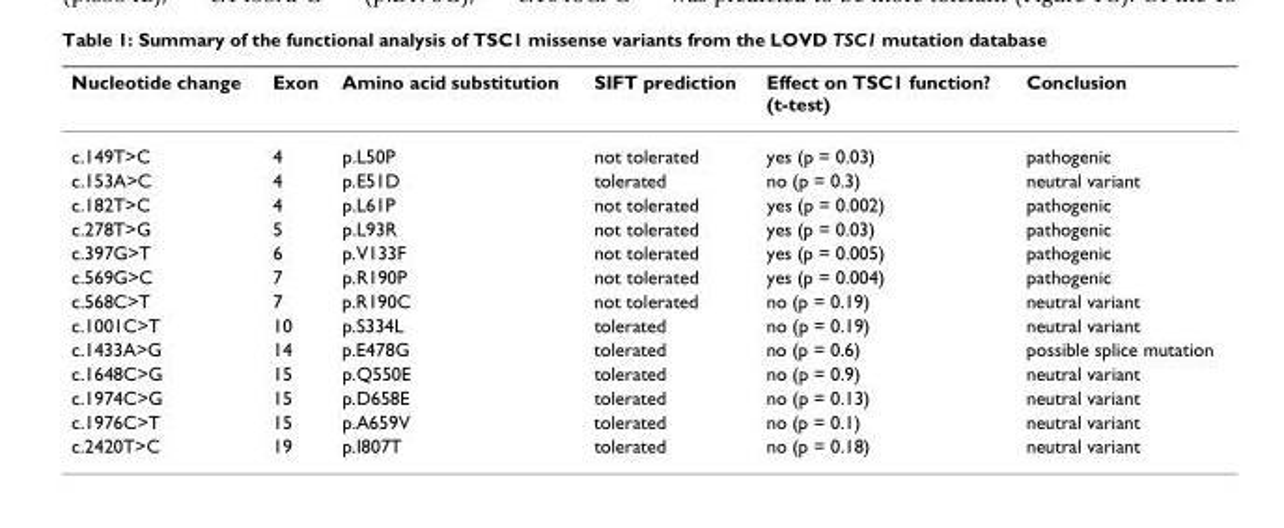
<table><thead><tr><td>Nucleotide change</td><td>Exon</td><td>Amino acid substitution</td><td>SIFT prediction</td><td>Effect on TSC1 function? (t-test)</td><td>Conclusion</td></tr></thead><tbody><tr><td>c.149T&gt;C</td><td>4</td><td>p.L50P</td><td>not tolerated</td><td>yes (p = 0.03)</td><td>pathogenic</td></tr><tr><td>c.153A&gt;C</td><td>4</td><td>p.E51D</td><td>tolerated</td><td>no (p = 0.3)</td><td>neutral variant</td></tr><tr><td>c.182T&gt;C</td><td>4</td><td>p.L61P</td><td>not tolerated</td><td>yes (p = 0.002)</td><td>pathogenic</td></tr><tr><td>c.278T&gt;G</td><td>5</td><td>p.L93R</td><td>not tolerated</td><td>yes (p = 0.03)</td><td>pathogenic</td></tr><tr><td>c.397G&gt;T</td><td>6</td><td>p.V133F</td><td>not tolerated</td><td>yes (p = 0.005)</td><td>pathogenic</td></tr><tr><td>c.569G&gt;C</td><td>7</td><td>p.R190P</td><td>not tolerated</td><td>yes (p = 0.004)</td><td>pathogenic</td></tr><tr><td>c.568C&gt;T</td><td>7</td><td>p.R190C</td><td>not tolerated</td><td>no (p = 0.19)</td><td>neutral variant</td></tr><tr><td>c.1001C&gt;T</td><td>10</td><td>p.S334L</td><td>tolerated</td><td>no (p = 0.19)</td><td>neutral variant</td></tr><tr><td>c.1433A&gt;G</td><td>14</td><td>p.E478G</td><td>tolerated</td><td>no (p = 0.6)</td><td>possible splice mutation</td></tr><tr><td>c.1648C&gt;G</td><td>15</td><td>p.Q550E</td><td>tolerated</td><td>no (p = 0.9)</td><td>neutral variant</td></tr><tr><td>c.1974C&gt;G</td><td>15</td><td>p.D658E</td><td>tolerated</td><td>no (p = 0.13)</td><td>neutral variant</td></tr><tr><td>c.1976C&gt;T</td><td>15</td><td>p.A659V</td><td>tolerated</td><td>no (p = 0.1)</td><td>neutral variant</td></tr><tr><td>c.2420T&gt;C</td><td>19</td><td>p.I807T</td><td>tolerated</td><td>no (p = 0.18)</td><td>neutral variant</td></tr></tbody></table>